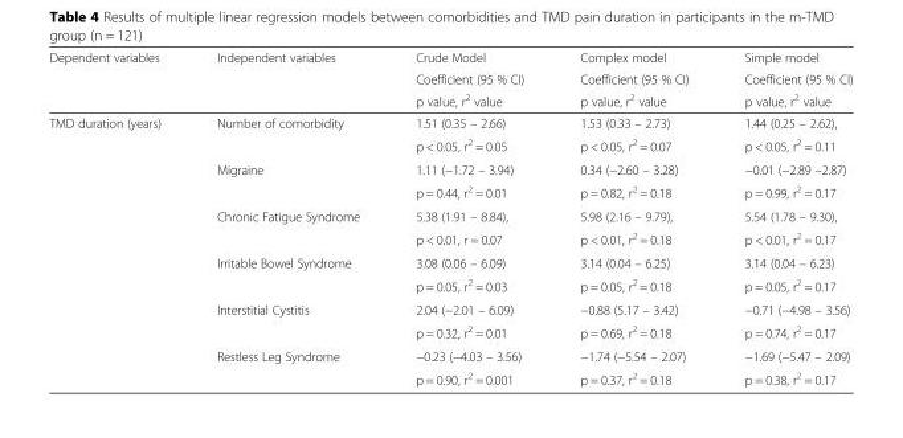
<table><thead><tr><td rowspan="3">Dependent variables</td><td rowspan="3">Independent variables</td><td rowspan="3">Crude Model Coefficient (95 % CI) p value, r<sup>2</sup> value</td><td rowspan="3">Complex model Coefficient (95 % CI) p value, r<sup>2</sup> value</td><td rowspan="3">Simple model Coefficient (95 % CI) p value, r<sup>2</sup> value</td></tr><tr></tr><tr></tr></thead><tbody><tr><td rowspan="12">TMD duration (years)</td><td rowspan="2">Number of comorbidity</td><td>1.51 (0.35 – 2.66)</td><td>1.53 (0.33 – 2.73)</td><td>1.44 (0.25 – 2.62),</td></tr><tr><td>p &lt; 0.05, r<sup>2</sup> = 0.05</td><td>p &lt; 0.05, r<sup>2</sup> = 0.07</td><td>p &lt; 0.05, r<sup>2</sup> = 0.11</td></tr><tr><td rowspan="2">Migraine</td><td>1.11 (−1.72 – 3.94)</td><td>0.34 (−2.60 – 3.28)</td><td>−0.01 (−2.89 –2.87)</td></tr><tr><td>p = 0.44, r<sup>2</sup> = 0.01</td><td>p = 0.82, r<sup>2</sup> = 0.18</td><td>p = 0.99, r<sup>2</sup> = 0.17</td></tr><tr><td rowspan="2">Chronic Fatigue Syndrome</td><td>5.38 (1.91 – 8.84),</td><td>5.98 (2.16 – 9.79),</td><td>5.54 (1.78 – 9.30),</td></tr><tr><td>p &lt; 0.01, r = 0.07</td><td>p &lt; 0.01, r<sup>2</sup> = 0.18</td><td>p &lt; 0.01, r<sup>2</sup> = 0.17</td></tr><tr><td rowspan="2">Irritable Bowel Syndrome</td><td>3.08 (0.06 – 6.09)</td><td>3.14 (0.04 – 6.25)</td><td>3.14 (0.04 – 6.23)</td></tr><tr><td>p = 0.05, r<sup>2</sup> = 0.03</td><td>p = 0.05, r<sup>2</sup> = 0.18</td><td>p = 0.05, r<sup>2</sup> = 0.17</td></tr><tr><td rowspan="2">Interstitial Cystitis</td><td>2.04 (−2.01 – 6.09)</td><td>−0.88 (5.17 – 3.42)</td><td>−0.71 (−4.98 – 3.56)</td></tr><tr><td>p = 0.32, r<sup>2</sup> = 0.01</td><td>p = 0.69, r<sup>2</sup> = 0.18</td><td>p = 0.74, r<sup>2</sup> = 0.17</td></tr><tr><td rowspan="2">Restless Leg Syndrome</td><td>−0.23 (−4.03 – 3.56)</td><td>−1.74 (−5.54 – 2.07)</td><td>−1.69 (−5.47 – 2.09)</td></tr><tr><td>p = 0.90, r<sup>2</sup> = 0.001</td><td>p = 0.37, r<sup>2</sup> = 0.18</td><td>p = 0.38, r<sup>2</sup> = 0.17</td></tr></tbody></table>